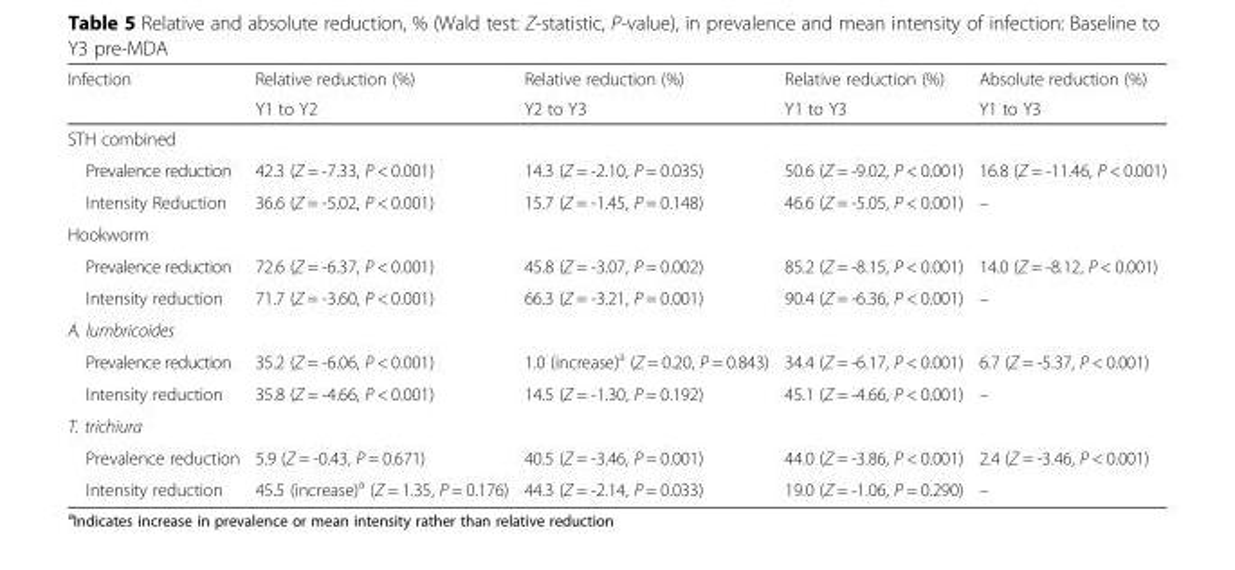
<table><thead><tr><td rowspan="2">Infection</td><td rowspan="2">Relative reduction (%) Y1 to Y2</td><td rowspan="2">Relative reduction (%) Y2 to Y3</td><td rowspan="2">Relative reduction (%) Y1 to Y3</td><td rowspan="2">Absolute reduction (%) Y1 to Y3</td></tr><tr></tr></thead><tbody><tr><td colspan="5">STH combined</td></tr><tr><td>Prevalence reduction</td><td>42.3 (Z = -7.33, P &lt; 0.001)</td><td>14.3 (Z = -2.10, P = 0.035)</td><td>50.6 (Z = -9.02, P &lt; 0.001)</td><td>16.8 (Z = -11.46, P &lt; 0.001)</td></tr><tr><td>Intensity Reduction</td><td>36.6 (Z = -5.02, P &lt; 0.001)</td><td>15.7 (Z = -1.45, P = 0.148)</td><td>46.6 (Z = -5.05, P &lt; 0.001)</td><td>–</td></tr><tr><td colspan="5">Hookworm</td></tr><tr><td>Prevalence reduction</td><td>72.6 (Z = -6.37, P &lt; 0.001)</td><td>45.8 (Z = -3.07, P = 0.002)</td><td>85.2 (Z = -8.15, P &lt; 0.001)</td><td>14.0 (Z = -8.12, P &lt; 0.001)</td></tr><tr><td>Intensity reduction</td><td>71.7 (Z = -3.60, P &lt; 0.001)</td><td>66.3 (Z = -3.21, P = 0.001)</td><td>90.4 (Z = -6.36, P &lt; 0.001)</td><td>–</td></tr><tr><td colspan="5">A. lumbricoides</td></tr><tr><td>Prevalence reduction</td><td>35.2 (Z = -6.06, P &lt; 0.001)</td><td>1.0 (increase)<sup>a</sup> (Z = 0.20, P = 0.843)</td><td>34.4 (Z = -6.17, P &lt; 0.001)</td><td>6.7 (Z = -5.37, P &lt; 0.001)</td></tr><tr><td>Intensity reduction</td><td>35.8 (Z = -4.66, P &lt; 0.001)</td><td>14.5 (Z = -1.30, P = 0.192)</td><td>45.1 (Z = -4.66, P &lt; 0.001)</td><td>–</td></tr><tr><td colspan="5">T. trichiura</td></tr><tr><td>Prevalence reduction</td><td>5.9 (Z = -0.43, P = 0.671)</td><td>40.5 (Z = -3.46, P = 0.001)</td><td>44.0 (Z = -3.86, P &lt; 0.001)</td><td>2.4 (Z = -3.46, P &lt; 0.001)</td></tr><tr><td>Intensity reduction</td><td>45.5 (increase)<sup>a</sup> (Z = 1.35, P = 0.176)</td><td>44.3 (Z = -2.14, P = 0.033)</td><td>19.0 (Z = -1.06, P = 0.290)</td><td>–</td></tr></tbody></table>